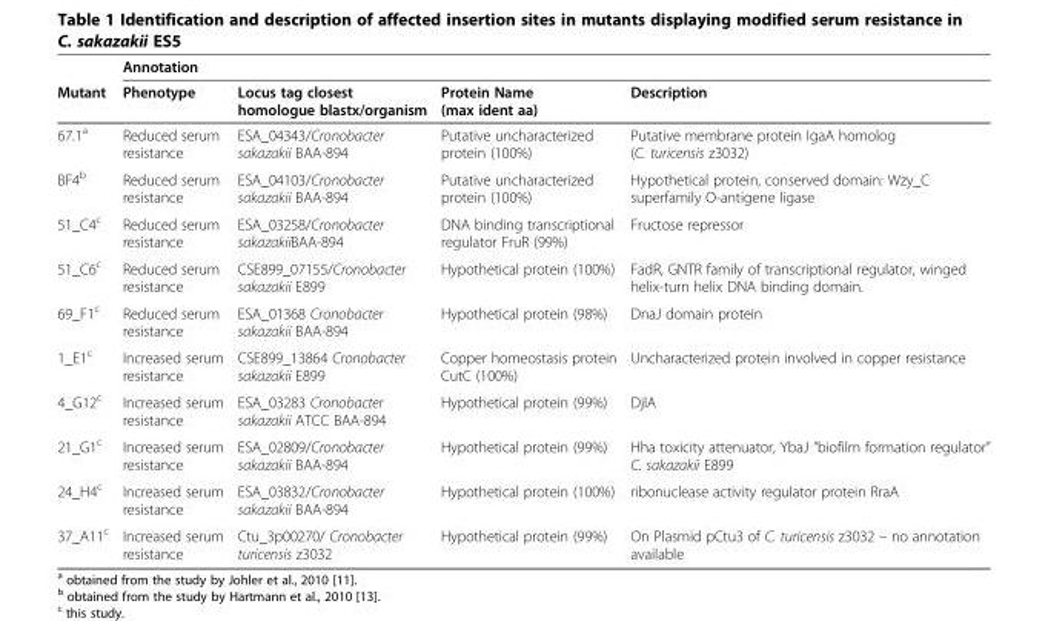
<table><thead><tr><td rowspan="2">Mutant</td><td colspan="4">Annotation</td></tr><tr><td>Phenotype</td><td>Locus tag closest homologue blastx/organism</td><td>Protein Name (max ident aa)</td><td>Description</td></tr></thead><tbody><tr><td>67.1<sup>a</sup></td><td>Reduced serum resistance</td><td>ESA_04343/Cronobacter sakazakii BAA-894</td><td>Putative uncharacterized protein (100%)</td><td>Putative membrane protein IgaA homolog (C. turicensis z3032)</td></tr><tr><td>BF4<sup>b</sup></td><td>Reduced serum resistance</td><td>ESA_04103/Cronobacter sakazakii BAA-894</td><td>Putative uncharacterized protein (100%)</td><td>Hypothetical protein, conserved domain: Wzy_C superfamily O-antigene ligase</td></tr><tr><td>51_C4<sup>c</sup></td><td>Reduced serum resistance</td><td>ESA_03258/Cronobacter sakazakiiBAA-894</td><td>DNA binding transcriptional regulator FruR (99%)</td><td>Fructose repressor</td></tr><tr><td>51_C6<sup>c</sup></td><td>Reduced serum resistance</td><td>CSE899_07155/Cronobacter sakazakii E899</td><td>Hypothetical protein (100%)</td><td>FadR, GNTR family of transcriptional regulator, winged helix-turn helix DNA binding domain.</td></tr><tr><td>69_F1<sup>c</sup></td><td>Reduced serum resistance</td><td>ESA_01368 Cronobacter sakazakii BAA-894</td><td>Hypothetical protein (98%)</td><td>DnaJ domain protein</td></tr><tr><td>1_E1<sup>c</sup></td><td>Increased serum resistance</td><td>CSE899_13864 Cronobacter sakazakii E899</td><td>Copper homeostasis protein CutC (100%)</td><td>Uncharacterized protein involved in copper resistance</td></tr><tr><td>4_G12<sup>c</sup></td><td>Increased serum resistance</td><td>ESA_03283 Cronobacter sakazakii ATCC BAA-894</td><td>Hypothetical protein (99%)</td><td>DjlA</td></tr><tr><td>21_G1<sup>c</sup></td><td>Increased serum resistance</td><td>ESA_02809/Cronobacter sakazakii BAA-894</td><td>Hypothetical protein (99%)</td><td>Hha toxicity attenuator, YbaJ “biofilm formation regulator” C. sakazakii E899</td></tr><tr><td>24_H4<sup>c</sup></td><td>Increased serum resistance</td><td>ESA_03832/Cronobacter sakazakii BAA-894</td><td>Hypothetical protein (100%)</td><td>ribonuclease activity regulator protein RraA</td></tr><tr><td>37_A11<sup>c</sup></td><td>Increased serum resistance</td><td>Ctu_3p00270/ Cronobacter turicensis z3032</td><td>Hypothetical protein (99%)</td><td>On Plasmid pCtu3 of C. turicensis z3032 – no annotation available</td></tr></tbody></table>